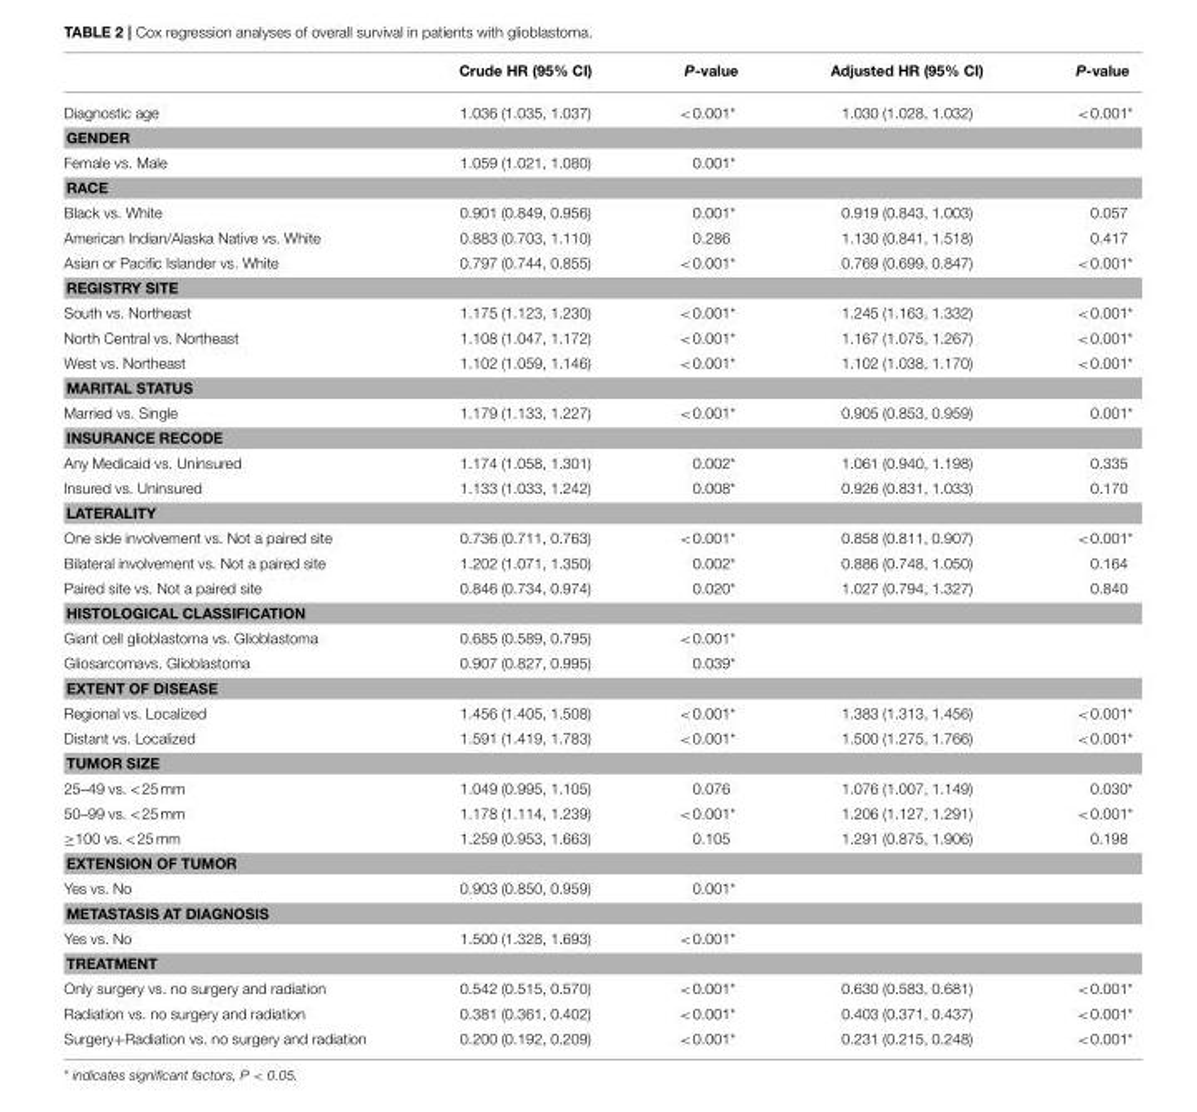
<table><thead><tr><td></td><td>Crude HR (95% CI)</td><td>P-value</td><td>Adjusted HR (95% CI)</td><td>P-value</td></tr></thead><tbody><tr><td>Diagnostic age</td><td>1.036 (1.035, 1.037)</td><td>&lt;0.001*</td><td>1.030 (1.028, 1.032)</td><td>&lt;0.001*</td></tr><tr><td colspan="5">GENDER</td></tr><tr><td>Female vs. Male</td><td>1.059 (1.021, 1.080)</td><td>0.001*</td><td></td><td></td></tr><tr><td colspan="5">RACE</td></tr><tr><td>Black vs. White</td><td>0.901 (0.849, 0.956)</td><td>0.001*</td><td>0.919 (0.843, 1.003)</td><td>0.057</td></tr><tr><td>American Indian/Alaska Native vs. White</td><td>0.883 (0.703, 1.110)</td><td>0.286</td><td>1.130 (0.841, 1.518)</td><td>0.417</td></tr><tr><td>Asian or Pacific Islander vs. White</td><td>0.797 (0.744, 0.855)</td><td>&lt;0.001*</td><td>0.769 (0.699, 0.847)</td><td>&lt;0.001*</td></tr><tr><td colspan="5">REGISTRY SITE</td></tr><tr><td>South vs. Northeast</td><td>1.175 (1.123, 1.230)</td><td>&lt;0.001*</td><td>1.245 (1.163, 1.332)</td><td>&lt;0.001*</td></tr><tr><td>North Central vs. Northeast</td><td>1.108 (1.047, 1.172)</td><td>&lt;0.001*</td><td>1.167 (1.075, 1.267)</td><td>&lt;0.001*</td></tr><tr><td>West vs. Northeast</td><td>1.102 (1.059, 1.146)</td><td>&lt;0.001*</td><td>1.102 (1.038, 1.170)</td><td>&lt;0.001*</td></tr><tr><td colspan="5">MARITAL STATUS</td></tr><tr><td>Married vs. Single</td><td>1.179 (1.133, 1.227)</td><td>&lt;0.001*</td><td>0.905 (0.853, 0.959)</td><td>0.001*</td></tr><tr><td colspan="5">INSURANCE RECODE</td></tr><tr><td>Any Medicaid vs. Uninsured</td><td>1.174 (1.058, 1.301)</td><td>0.002*</td><td>1.061 (0.940, 1.198)</td><td>0.335</td></tr><tr><td>Insured vs. Uninsured</td><td>1.133 (1.033, 1.242)</td><td>0.008*</td><td>0.926 (0.831, 1.033)</td><td>0.170</td></tr><tr><td colspan="5">LATERALITY</td></tr><tr><td>One side involvement vs. Not a paired site</td><td>0.736 (0.711, 0.763)</td><td>&lt;0.001*</td><td>0.858 (0.811, 0.907)</td><td>&lt;0.001*</td></tr><tr><td>Bilateral involvement vs. Not a paired site</td><td>1.202 (1.071, 1.350)</td><td>0.002*</td><td>0.886 (0.748, 1.050)</td><td>0.164</td></tr><tr><td>Paired site vs. Not a paired site</td><td>0.846 (0.734, 0.974)</td><td>0.020*</td><td>1.027 (0.794, 1.327)</td><td>0.840</td></tr><tr><td colspan="5">HISTOLOGICAL CLASSIFICATION</td></tr><tr><td>Giant cell glioblastoma vs. Glioblastoma</td><td>0.685 (0.589, 0.795)</td><td>&lt;0.001*</td><td></td><td></td></tr><tr><td>Gliosarcomavs. Glioblastoma</td><td>0.907 (0.827, 0.995)</td><td>0.039*</td><td></td><td></td></tr><tr><td colspan="5">EXTENT OF DISEASE</td></tr><tr><td>Regional vs. Localized</td><td>1.456 (1.405, 1.508)</td><td>&lt;0.001*</td><td>1.383 (1.313, 1.456)</td><td>&lt;0.001*</td></tr><tr><td>Distant vs. Localized</td><td>1.591 (1.419, 1.783)</td><td>&lt;0.001*</td><td>1.500 (1.275, 1.766)</td><td>&lt;0.001*</td></tr><tr><td colspan="5">TUMOR SIZE</td></tr><tr><td>25–49 vs. &lt;25 mm</td><td>1.049 (0.995, 1.105)</td><td>0.076</td><td>1.076 (1.007, 1.149)</td><td>0.030*</td></tr><tr><td>50–99 vs. &lt;25 mm</td><td>1.178 (1.114, 1.239)</td><td>&lt;0.001*</td><td>1.206 (1.127, 1.291)</td><td>&lt;0.001*</td></tr><tr><td>≥100 vs. &lt;25 mm</td><td>1.259 (0.953, 1.663)</td><td>0.105</td><td>1.291 (0.875, 1.906)</td><td>0.198</td></tr><tr><td colspan="5">EXTENSION OF TUMOR</td></tr><tr><td>Yes vs. No</td><td>0.903 (0.850, 0.959)</td><td>0.001*</td><td></td><td></td></tr><tr><td colspan="5">METASTASIS AT DIAGNOSIS</td></tr><tr><td>Yes vs. No</td><td>1.500 (1.328, 1.693)</td><td>&lt;0.001*</td><td></td><td></td></tr><tr><td colspan="5">TREATMENT</td></tr><tr><td>Only surgery vs. no surgery and radiation</td><td>0.542 (0.515, 0.570)</td><td>&lt;0.001*</td><td>0.630 (0.583, 0.681)</td><td>&lt;0.001*</td></tr><tr><td>Radiation vs. no surgery and radiation</td><td>0.381 (0.361, 0.402)</td><td>&lt;0.001*</td><td>0.403 (0.371, 0.437)</td><td>&lt;0.001*</td></tr><tr><td>Surgery+Radiation vs. no surgery and radiation</td><td>0.200 (0.192, 0.209)</td><td>&lt;0.001*</td><td>0.231 (0.215, 0.248)</td><td>&lt;0.001*</td></tr></tbody></table>